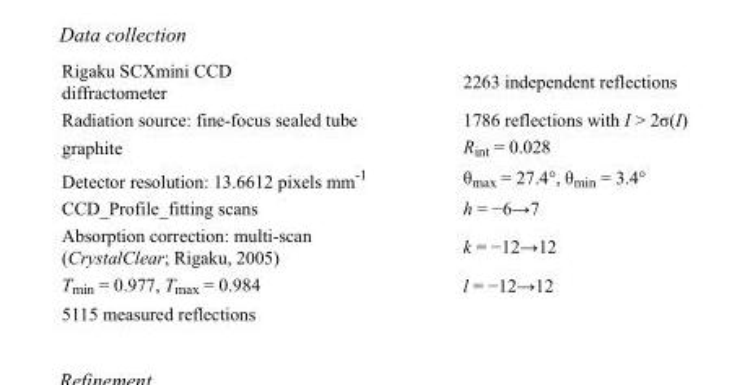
<table><tbody><tr><td>Rigaku SCXmini CCD diffractometer</td><td>2263 independent reflections</td></tr><tr><td>Radiation source: fine-focus sealed tube</td><td>1786 reflections with I &gt; 2σ(I)</td></tr><tr><td>graphite</td><td>R<sub>int</sub> = 0.028</td></tr><tr><td>Detector resolution: 13.6612 pixels mm<sup>-1</sup></td><td>θ<sub>max</sub> = 27.4°, θ<sub>min</sub> = 3.4°</td></tr><tr><td>CCD_Profile_fitting scans</td><td>h = −6→7</td></tr><tr><td>Absorption correction: multi-scan (CrystalClear; Rigaku, 2005)</td><td>k = −12→12</td></tr><tr><td>T<sub>min</sub> = 0.977, T<sub>max</sub> = 0.984</td><td>l = −12→12</td></tr><tr><td>5115 measured reflections</td><td></td></tr></tbody></table>